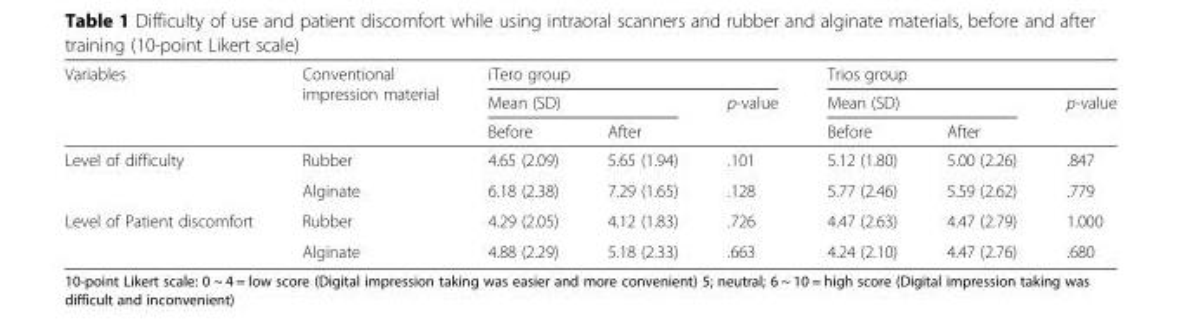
<table><thead><tr><td rowspan="3">Variables</td><td rowspan="3">Conventional impression material</td><td colspan="3">iTero group</td><td colspan="3">Trios group</td></tr><tr><td colspan="2">Mean (SD)</td><td rowspan="2">p-value</td><td colspan="2">Mean (SD)</td><td rowspan="2">p-value</td></tr><tr><td>Before</td><td>After</td><td>Before</td><td>After</td></tr></thead><tbody><tr><td rowspan="2">Level of difficulty</td><td>Rubber</td><td>4.65 (2.09)</td><td>5.65 (1.94)</td><td>.101</td><td>5.12 (1.80)</td><td>5.00 (2.26)</td><td>.847</td></tr><tr><td>Alginate</td><td>6.18 (2.38)</td><td>7.29 (1.65)</td><td>.128</td><td>5.77 (2.46)</td><td>5.59 (2.62)</td><td>.779</td></tr><tr><td rowspan="2">Level of Patient discomfort</td><td>Rubber</td><td>4.29 (2.05)</td><td>4.12 (1.83)</td><td>.726</td><td>4.47 (2.63)</td><td>4.47 (2.79)</td><td>1.000</td></tr><tr><td>Alginate</td><td>4.88 (2.29)</td><td>5.18 (2.33)</td><td>.663</td><td>4.24 (2.10)</td><td>4.47 (2.76)</td><td>.680</td></tr></tbody></table>